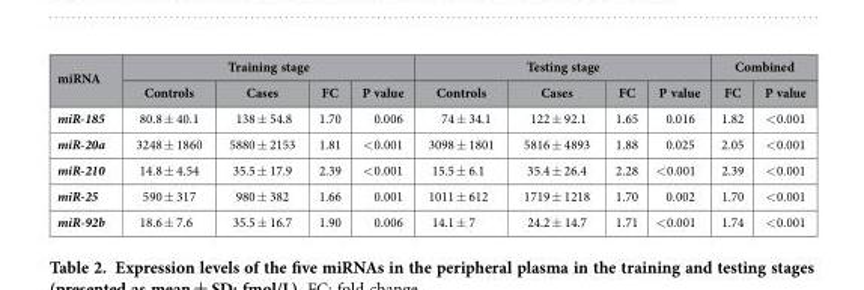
<table><thead><tr><td rowspan="2">miRNA</td><td colspan="4">Training stage</td><td colspan="4">Testing stage</td><td colspan="2">Combined</td></tr><tr><td>Controls</td><td>Cases</td><td>FC</td><td>P value</td><td>Controls</td><td>Cases</td><td>FC</td><td>P value</td><td>FC</td><td>P value</td></tr></thead><tbody><tr><td>miR-185</td><td>80.8 ± 40.1</td><td>138 ± 54.8</td><td>1.70</td><td>0.006</td><td>74 ± 34.1</td><td>122 ± 92.1</td><td>1.65</td><td>0.016</td><td>1.82</td><td>&lt; 0.001</td></tr><tr><td>miR-20a</td><td>3248 ± 1860</td><td>5880 ± 2153</td><td>1.81</td><td>&lt; 0.001</td><td>3098 ± 1801</td><td>5816 ± 4893</td><td>1.88</td><td>0.025</td><td>2.05</td><td>&lt; 0.001</td></tr><tr><td>miR-210</td><td>14.8 ± 4.54</td><td>35.5 ± 17.9</td><td>2.39</td><td>&lt; 0.001</td><td>15.5 ± 6.1</td><td>35.4 ± 26.4</td><td>2.28</td><td>&lt; 0.001</td><td>2.39</td><td>&lt; 0.001</td></tr><tr><td>miR-25</td><td>590 ± 317</td><td>980 ± 382</td><td>1.66</td><td>0.001</td><td>1011 ± 612</td><td>1719 ± 1218</td><td>1.70</td><td>0.002</td><td>1.70</td><td>&lt; 0.001</td></tr><tr><td>miR-92b</td><td>18.6 ± 7.6</td><td>35.5 ± 16.7</td><td>1.90</td><td>0.006</td><td>14.1 ± 7</td><td>24.2 ± 14.7</td><td>1.71</td><td>&lt; 0.001</td><td>1.74</td><td>&lt; 0.001</td></tr></tbody></table>